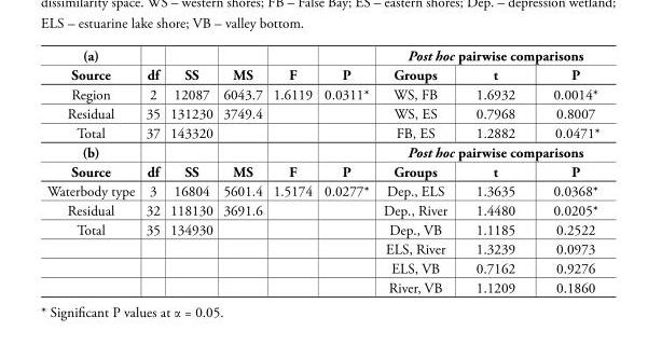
<table><thead><tr><td rowspan="2">(a) Source</td><td rowspan="2">df</td><td rowspan="2">SS</td><td rowspan="2">MS</td><td rowspan="2">F</td><td rowspan="2">P</td><td colspan="3">Post hoc pairwise comparisons</td></tr><tr><td>Groups</td><td>t</td><td>P</td></tr></thead><tbody><tr><td>Region</td><td>2</td><td>12087</td><td>6043.7</td><td>1.6119</td><td>0.0311*</td><td>WS, FB</td><td>1.6932</td><td>0.0014*</td></tr><tr><td>Residual</td><td>35</td><td>131230</td><td>3749.4</td><td></td><td></td><td>WS, ES</td><td>0.7968</td><td>0.8007</td></tr><tr><td>Total</td><td>37</td><td>143320</td><td></td><td></td><td></td><td>FB, ES</td><td>1.2882</td><td>0.0471*</td></tr><tr><td>(b)</td><td></td><td></td><td></td><td></td><td></td><td colspan="3">Post hoc pairwise comparisons</td></tr><tr><td>Source</td><td>df</td><td>SS</td><td>MS</td><td>F</td><td>P</td><td>Groups</td><td>t</td><td>P</td></tr><tr><td>Waterbody type</td><td>3</td><td>16804</td><td>5601.4</td><td>1.5174</td><td>0.0277*</td><td>Dep., ELS</td><td>1.3635</td><td>0.0368*</td></tr><tr><td>Residual</td><td>32</td><td>118130</td><td>3691.6</td><td></td><td></td><td>Dep., River</td><td>1.4480</td><td>0.0205*</td></tr><tr><td rowspan="4">Total</td><td>35</td><td>134930</td><td></td><td></td><td></td><td>Dep., VB</td><td>1.1185</td><td>0.2522</td></tr><tr><td></td><td></td><td></td><td></td><td></td><td>ELS, River</td><td>1.3239</td><td>0.0973</td></tr><tr><td></td><td></td><td></td><td></td><td></td><td>ELS, VB</td><td>0.7162</td><td>0.9276</td></tr><tr><td></td><td></td><td></td><td></td><td></td><td>River, VB</td><td>1.1209</td><td>0.1860</td></tr></tbody></table>